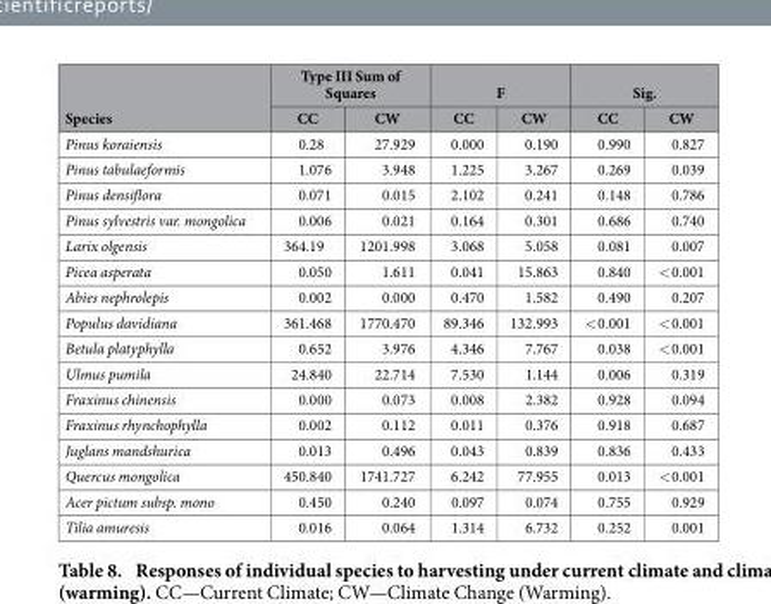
<table><thead><tr><td rowspan="2">Species</td><td colspan="2">Type III Sum of Squares</td><td colspan="2">F</td><td colspan="2">Sig.</td></tr><tr><td>CC</td><td>CW</td><td>CC</td><td>CW</td><td>CC</td><td>CW</td></tr></thead><tbody><tr><td>Pinus koraiensis</td><td>0.28</td><td>27.929</td><td>0.000</td><td>0.190</td><td>0.990</td><td>0.827</td></tr><tr><td>Pinus tabulaeformis</td><td>1.076</td><td>3.948</td><td>1.225</td><td>3.267</td><td>0.269</td><td>0.039</td></tr><tr><td>Pinus densiflora</td><td>0.071</td><td>0.015</td><td>2.102</td><td>0.241</td><td>0.148</td><td>0.786</td></tr><tr><td>Pinus sylvestris var. mongolica</td><td>0.006</td><td>0.021</td><td>0.164</td><td>0.301</td><td>0.686</td><td>0.740</td></tr><tr><td>Larix olgensis</td><td>364.19</td><td>1201.998</td><td>3.068</td><td>5.058</td><td>0.081</td><td>0.007</td></tr><tr><td>Picea asperata</td><td>0.050</td><td>1.611</td><td>0.041</td><td>15.863</td><td>0.840</td><td>&lt; 0.001</td></tr><tr><td>Abies nephrolepis</td><td>0.002</td><td>0.000</td><td>0.470</td><td>1.582</td><td>0.490</td><td>0.207</td></tr><tr><td>Populus davidiana</td><td>361.468</td><td>1770.470</td><td>89.346</td><td>132.993</td><td>&lt; 0.001</td><td>&lt; 0.001</td></tr><tr><td>Betula platyphylla</td><td>0.652</td><td>3.976</td><td>4.346</td><td>7.767</td><td>0.038</td><td>&lt; 0.001</td></tr><tr><td>Ulmus pumila</td><td>24.840</td><td>22.714</td><td>7.530</td><td>1.144</td><td>0.006</td><td>0.319</td></tr><tr><td>Fraxinus chinensis</td><td>0.000</td><td>0.073</td><td>0.008</td><td>2.382</td><td>0.928</td><td>0.094</td></tr><tr><td>Fraxinus rhynchophylla</td><td>0.002</td><td>0.112</td><td>0.011</td><td>0.376</td><td>0.918</td><td>0.687</td></tr><tr><td>Juglans mandshurica</td><td>0.013</td><td>0.496</td><td>0.043</td><td>0.839</td><td>0.836</td><td>0.433</td></tr><tr><td>Quercus mongolica</td><td>450.840</td><td>1741.727</td><td>6.242</td><td>77.955</td><td>0.013</td><td>&lt; 0.001</td></tr><tr><td>Acer pictum subsp. mono</td><td>0.450</td><td>0.240</td><td>0.097</td><td>0.074</td><td>0.755</td><td>0.929</td></tr><tr><td>Tilia amuresis</td><td>0.016</td><td>0.064</td><td>1.314</td><td>6.732</td><td>0.252</td><td>0.001</td></tr></tbody></table>